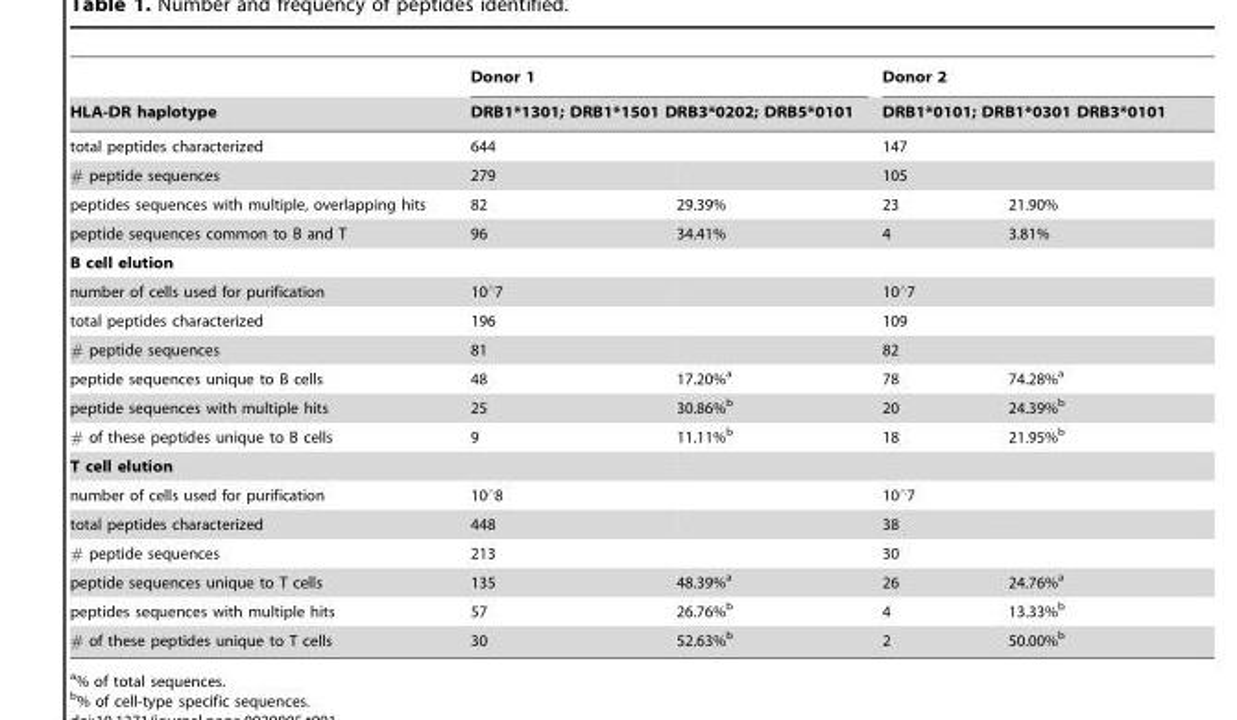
<table><thead><tr><td rowspan="3">HLA-DR haplotype total peptides characterized</td><td rowspan="2" colspan="2">Donor 1 DRB1*1301; DRB1*1501 DRB3*0202; DRB5*0101</td><td rowspan="2" colspan="2">Donor 2 DRB1*0101; DRB1*0301 DRB3*0101</td></tr><tr></tr><tr><td>644</td><td></td><td>147</td><td></td></tr></thead><tbody><tr><td># peptide sequences</td><td>279</td><td></td><td>105</td><td></td></tr><tr><td>peptides sequences with multiple, overlapping hits</td><td>82</td><td>29.39%</td><td>23</td><td>21.90%</td></tr><tr><td>peptide sequences common to B and T</td><td>96</td><td>34.41%</td><td>4</td><td>3.81%</td></tr><tr><td colspan="5">B cell elution</td></tr><tr><td>number of cells used for purification</td><td>10‘7</td><td></td><td>10‘7</td><td></td></tr><tr><td>total peptides characterized</td><td>196</td><td></td><td>109</td><td></td></tr><tr><td># peptide sequences</td><td>81</td><td></td><td>82</td><td></td></tr><tr><td>peptide sequences unique to B cells</td><td>48</td><td>17.20%<sup>a</sup></td><td>78</td><td>74.28%<sup>a</sup></td></tr><tr><td>peptide sequences with multiple hits</td><td>25</td><td>30.86%<sup>b</sup></td><td>20</td><td>24.39%<sup>b</sup></td></tr><tr><td># of these peptides unique to B cells</td><td>9</td><td>11.11%<sup>b</sup></td><td>18</td><td>21.95%<sup>b</sup></td></tr><tr><td colspan="5">T cell elution</td></tr><tr><td>number of cells used for purification</td><td>10‘8</td><td></td><td>10‘7</td><td></td></tr><tr><td>total peptides characterized</td><td>448</td><td></td><td>38</td><td></td></tr><tr><td># peptide sequences</td><td>213</td><td></td><td>30</td><td></td></tr><tr><td>peptide sequences unique to T cells</td><td>135</td><td>48.39%<sup>a</sup></td><td>26</td><td>24.76%<sup>a</sup></td></tr><tr><td>peptides sequences with multiple hits</td><td>57</td><td>26.76%<sup>b</sup></td><td>4</td><td>13.33%<sup>b</sup></td></tr><tr><td># of these peptides unique to T cells</td><td>30</td><td>52.63%<sup>b</sup></td><td>2</td><td>50.00%<sup>b</sup></td></tr></tbody></table>